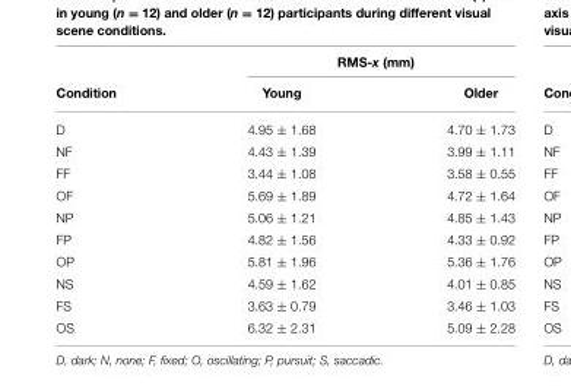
<table><thead><tr><td rowspan="2">Condition</td><td colspan="2">RMS-x (mm)</td></tr><tr><td>Young</td><td>Older</td></tr></thead><tbody><tr><td>D</td><td>4.95 ± 1.68</td><td>4.70 ± 1.73</td></tr><tr><td>NF</td><td>4.43 ± 1.39</td><td>3.99 ± 1.11</td></tr><tr><td>FF</td><td>3.44 ± 1.08</td><td>3.58 ± 0.55</td></tr><tr><td>OF</td><td>5.69 ± 1.89</td><td>4.72 ± 1.64</td></tr><tr><td>NP</td><td>5.06 ± 1.21</td><td>4.85 ± 1.43</td></tr><tr><td>FP</td><td>4.82 ± 1.56</td><td>4.33 ± 0.92</td></tr><tr><td>OP</td><td>5.81 ± 1.96</td><td>5.36 ± 1.76</td></tr><tr><td>NS</td><td>4.59 ± 1.62</td><td>4.01 ± 0.85</td></tr><tr><td>FS</td><td>3.63 ± 0.79</td><td>3.46 ± 1.03</td></tr><tr><td>OS</td><td>6.32 ± 2.31</td><td>5.09 ± 2.28</td></tr></tbody></table>